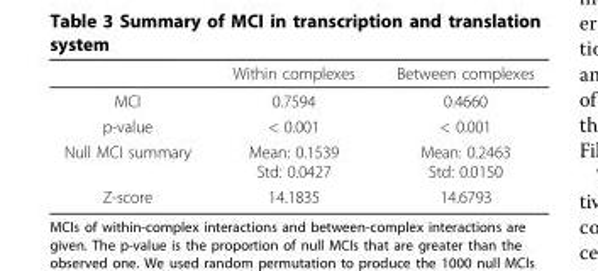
<table><thead><tr><td></td><td>Within complexes</td><td>Between complexes</td></tr></thead><tbody><tr><td>MCI</td><td>0.7594</td><td>0.4660</td></tr><tr><td>p-value</td><td>&lt; 0.001</td><td>&lt; 0.001</td></tr><tr><td>Null MCI summary</td><td>Mean: 0.1539 Std: 0.0427</td><td>Mean: 0.2463 Std: 0.0150</td></tr><tr><td>Z-score</td><td>14.1835</td><td>14.6793</td></tr></tbody></table>